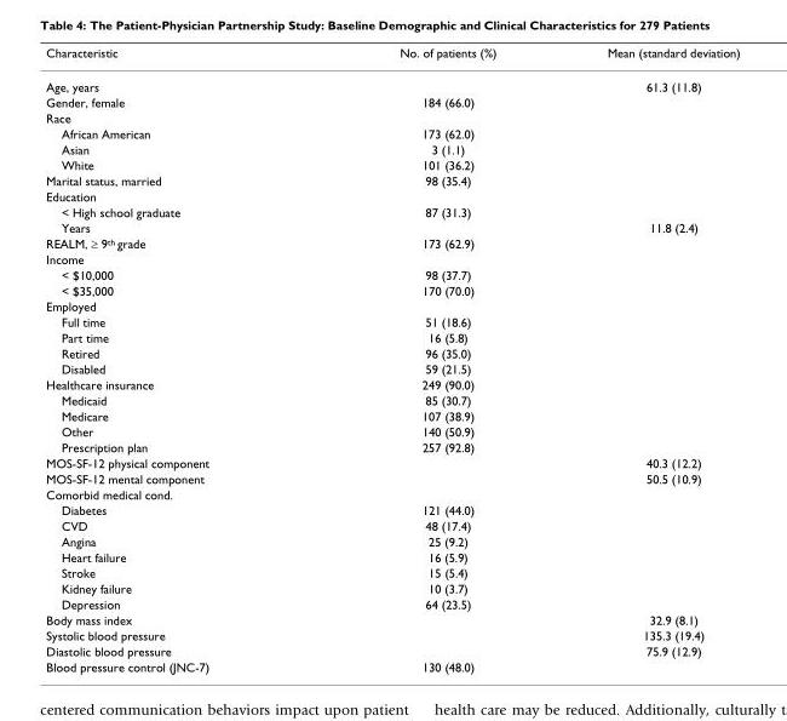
<table><thead><tr><td>Characteristic</td><td>No. of patients (%)</td><td>Mean (standard deviation)</td></tr></thead><tbody><tr><td>Age, years</td><td></td><td>61.3 (11.8)</td></tr><tr><td>Gender, female</td><td>184 (66.0)</td><td></td></tr><tr><td colspan="3">Race</td></tr><tr><td>African American</td><td>173 (62.0)</td><td></td></tr><tr><td>Asian</td><td>3 (1.1)</td><td></td></tr><tr><td>White</td><td>101 (36.2)</td><td></td></tr><tr><td>Marital status, married</td><td>98 (35.4)</td><td></td></tr><tr><td colspan="3">Education</td></tr><tr><td>&lt; High school graduate</td><td>87 (31.3)</td><td></td></tr><tr><td>Years</td><td></td><td>11.8 (2.4)</td></tr><tr><td>REALM, ≥ 9<sup>th</sup> grade</td><td>173 (62.9)</td><td></td></tr><tr><td colspan="3">Income</td></tr><tr><td>&lt; $10,000</td><td>98 (37.7)</td><td></td></tr><tr><td>&lt; $35,000</td><td>170 (70.0)</td><td></td></tr><tr><td colspan="3">Employed</td></tr><tr><td>Full time</td><td>51 (18.6)</td><td></td></tr><tr><td>Part time</td><td>16 (5.8)</td><td></td></tr><tr><td>Retired</td><td>96 (35.0)</td><td></td></tr><tr><td>Disabled</td><td>59 (21.5)</td><td></td></tr><tr><td>Healthcare insurance</td><td>249 (90.0)</td><td></td></tr><tr><td>Medicaid</td><td>85 (30.7)</td><td></td></tr><tr><td>Medicare</td><td>107 (38.9)</td><td></td></tr><tr><td>Other</td><td>140 (50.9)</td><td></td></tr><tr><td>Prescription plan</td><td>257 (92.8)</td><td></td></tr><tr><td>MOS-SF-12 physical component</td><td></td><td>40.3 (12.2)</td></tr><tr><td>MOS-SF-12 mental component</td><td></td><td>50.5 (10.9)</td></tr><tr><td colspan="3">Comorbid medical cond.</td></tr><tr><td>Diabetes</td><td>121 (44.0)</td><td></td></tr><tr><td>CVD</td><td>48 (17.4)</td><td></td></tr><tr><td>Angina</td><td>25 (9.2)</td><td></td></tr><tr><td>Heart failure</td><td>16 (5.9)</td><td></td></tr><tr><td>Stroke</td><td>15 (5.4)</td><td></td></tr><tr><td>Kidney failure</td><td>10 (3.7)</td><td></td></tr><tr><td>Depression</td><td>64 (23.5)</td><td></td></tr><tr><td>Body mass index</td><td></td><td>32.9 (8.1)</td></tr><tr><td>Systolic blood pressure</td><td></td><td>135.3 (19.4)</td></tr><tr><td>Diastolic blood pressure</td><td></td><td>75.9 (12.9)</td></tr><tr><td>Blood pressure control (JNC-7)</td><td>130 (48.0)</td><td></td></tr></tbody></table>